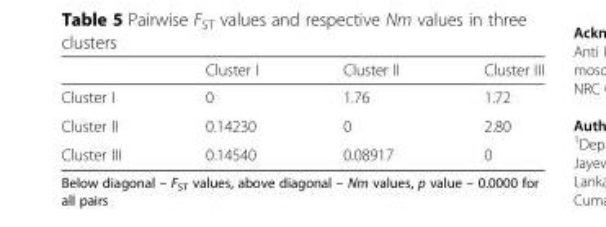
<table><thead><tr><td></td><td>Cluster I</td><td>Cluster II</td><td>Cluster III</td></tr></thead><tbody><tr><td>Cluster I</td><td>0</td><td>1.76</td><td>1.72</td></tr><tr><td>Cluster II</td><td>0.14230</td><td>0</td><td>2.80</td></tr><tr><td>Cluster III</td><td>0.14540</td><td>0.08917</td><td>0</td></tr></tbody></table>